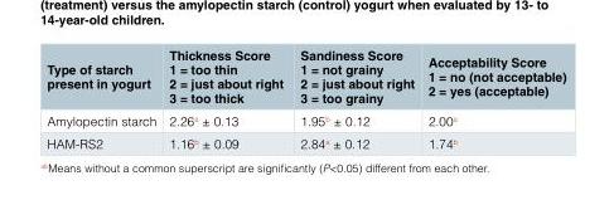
<table><thead><tr><td>Type of starch present in yogurt</td><td>Thickness Score 1 = too thin 2 = just about right 3 = too thick</td><td>Sandiness Score 1 = not grainy 2 = just about right 3 = too grainy</td><td>Acceptability Score 1 = no (not acceptable) 2 = yes (acceptable)</td></tr></thead><tbody><tr><td>Amylopectin starch</td><td>2.26<sup>a</sup> ± 0.13</td><td>1.95<sup>b</sup> ± 0.12</td><td>2.00<sup>a</sup></td></tr><tr><td>HAM-RS2</td><td>1.16<sup>b</sup> ± 0.09</td><td>2.84<sup>a</sup> ± 0.12</td><td>1.74<sup>b</sup></td></tr></tbody></table>